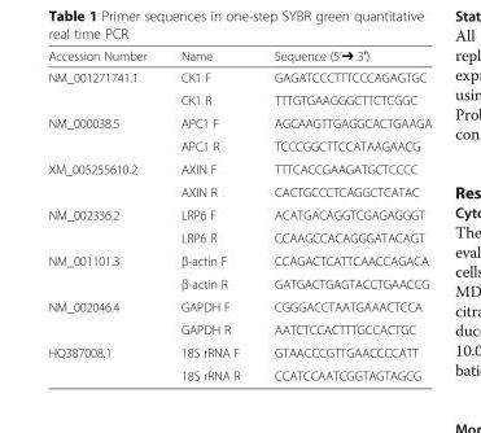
<table><thead><tr><td>Accession Number</td><td>Name</td><td>Sequence (5’➔ 3′)</td></tr></thead><tbody><tr><td rowspan="2">NM_001271741.1</td><td>CK1 F</td><td>GAGATCCCTTTCCCAGAGTGC</td></tr><tr><td>CK1 R</td><td>TTTGTGAAGGGCTTCTCGGC</td></tr><tr><td rowspan="2">NM_000038.5</td><td>APC1 F</td><td>AGCAAGTTGAGGCACTGAAGA</td></tr><tr><td>APC1 R</td><td>TCCCGGCTTCCATAAGAACG</td></tr><tr><td rowspan="2">XM_005255610.2</td><td>AXIN F</td><td>TTTCACCGAAGATGCTCCCC</td></tr><tr><td>AXIN R</td><td>CACTGCCCTCAGGCTCATAC</td></tr><tr><td rowspan="2">NM_002336.2</td><td>LRP6 F</td><td>ACATGACAGGTCGAGAGGGT</td></tr><tr><td>LRP6 R</td><td>CCAAGCCACAGGGATACAGT</td></tr><tr><td rowspan="2">NM_001101.3</td><td>β-actin F</td><td>CCAGACTCATTCAACCAGACA</td></tr><tr><td>β-actin R</td><td>GATGACTGAGTACCTGAACCG</td></tr><tr><td rowspan="2">NM_002046.4</td><td>GAPDH F</td><td>CGGGACCTAATGAAACTCCA</td></tr><tr><td>GAPDH R</td><td>AATCTCCACTTTGCCACTGC</td></tr><tr><td rowspan="2">HQ387008.1</td><td>18S rRNA F</td><td>GTAACCCGTTGAACCCCATT</td></tr><tr><td>18S rRNA R</td><td>CCATCCAATCGGTAGTAGCG</td></tr></tbody></table>